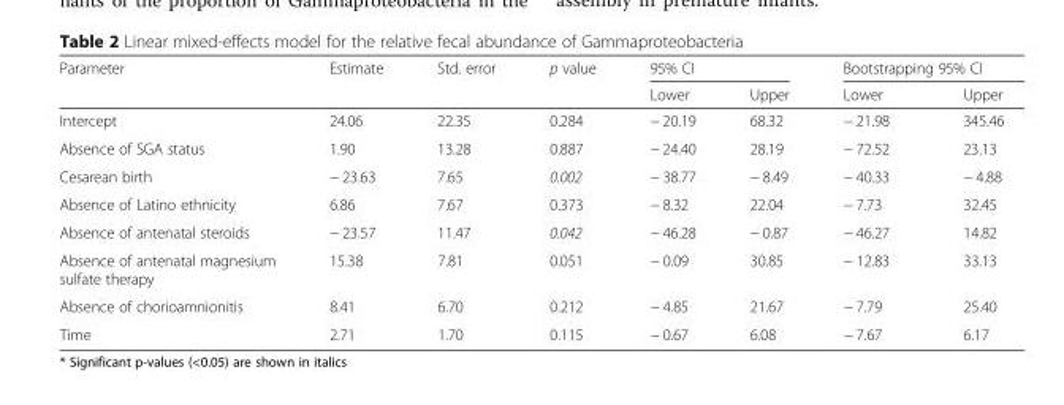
<table><thead><tr><td rowspan="2">Parameter</td><td rowspan="2">Estimate</td><td rowspan="2">Std. error</td><td rowspan="2">p value</td><td colspan="2">95% CI</td><td colspan="2">Bootstrapping 95% CI</td></tr><tr><td>Lower</td><td>Upper</td><td>Lower</td><td>Upper</td></tr></thead><tbody><tr><td>Intercept</td><td>24.06</td><td>22.35</td><td>0.284</td><td>− 20.19</td><td>68.32</td><td>− 21.98</td><td>345.46</td></tr><tr><td>Absence of SGA status</td><td>1.90</td><td>13.28</td><td>0.887</td><td>− 24.40</td><td>28.19</td><td>− 72.52</td><td>23.13</td></tr><tr><td>Cesarean birth</td><td>− 23.63</td><td>7.65</td><td>0.002</td><td>− 38.77</td><td>− 8.49</td><td>− 40.33</td><td>− 4.88</td></tr><tr><td>Absence of Latino ethnicity</td><td>6.86</td><td>7.67</td><td>0.373</td><td>− 8.32</td><td>22.04</td><td>− 7.73</td><td>32.45</td></tr><tr><td>Absence of antenatal steroids</td><td>− 23.57</td><td>11.47</td><td>0.042</td><td>− 46.28</td><td>− 0.87</td><td>− 46.27</td><td>14.82</td></tr><tr><td>Absence of antenatal magnesium sulfate therapy</td><td>15.38</td><td>7.81</td><td>0.051</td><td>− 0.09</td><td>30.85</td><td>− 12.83</td><td>33.13</td></tr><tr><td>Absence of chorioamnionitis</td><td>8.41</td><td>6.70</td><td>0.212</td><td>− 4.85</td><td>21.67</td><td>− 7.79</td><td>25.40</td></tr><tr><td>Time</td><td>2.71</td><td>1.70</td><td>0.115</td><td>− 0.67</td><td>6.08</td><td>− 7.67</td><td>6.17</td></tr></tbody></table>